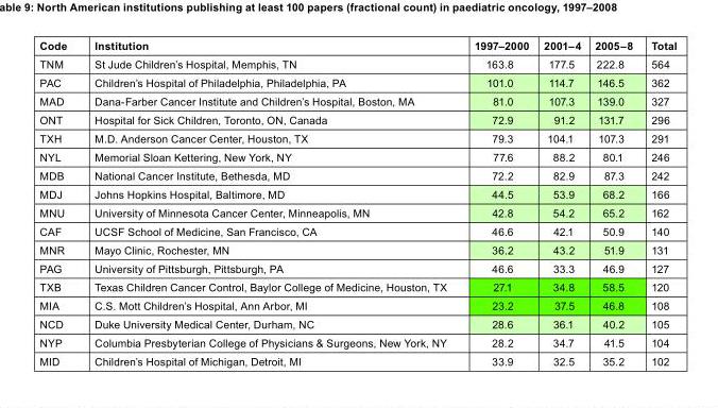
<table><thead><tr><td>Code</td><td>Institution</td><td>1997–2000</td><td>2001–4</td><td>2005–8</td><td>Total</td></tr></thead><tbody><tr><td>TNM</td><td>St Jude Children’s Hospital, Memphis, TN</td><td>163.8</td><td>177.5</td><td>222.8</td><td>564</td></tr><tr><td>PAC</td><td>Children’s Hospital of Philadelphia, Philadelphia, PA</td><td>101.0</td><td>114.7</td><td>146.5</td><td>362</td></tr><tr><td>MAD</td><td>Dana-Farber Cancer Institute and Children’s Hospital, Boston, MA</td><td>81.0</td><td>107.3</td><td>139.0</td><td>327</td></tr><tr><td>ONT</td><td>Hospital for Sick Children, Toronto, ON, Canada</td><td>72.9</td><td>91.2</td><td>131.7</td><td>296</td></tr><tr><td>TXH</td><td>M.D. Anderson Cancer Center, Houston, TX</td><td>79.3</td><td>104.1</td><td>107.3</td><td>291</td></tr><tr><td>NYL</td><td>Memorial Sloan Kettering, New York, NY</td><td>77.6</td><td>88.2</td><td>80.1</td><td>246</td></tr><tr><td>MDB</td><td>National Cancer Institute, Bethesda, MD</td><td>72.2</td><td>82.9</td><td>87.3</td><td>242</td></tr><tr><td>MDJ</td><td>Johns Hopkins Hospital, Baltimore, MD</td><td>44.5</td><td>53.9</td><td>68.2</td><td>166</td></tr><tr><td>MNU</td><td>University of Minnesota Cancer Center, Minneapolis, MN</td><td>42.8</td><td>54.2</td><td>65.2</td><td>162</td></tr><tr><td>CAF</td><td>UCSF School of Medicine, San Francisco, CA</td><td>46.6</td><td>42.1</td><td>50.9</td><td>140</td></tr><tr><td>MNR</td><td>Mayo Clinic, Rochester, MN</td><td>36.2</td><td>43.2</td><td>51.9</td><td>131</td></tr><tr><td>PAG</td><td>University of Pittsburgh, Pittsburgh, PA</td><td>46.6</td><td>33.3</td><td>46.9</td><td>127</td></tr><tr><td>TXB</td><td>Texas Children Cancer Control, Baylor College of Medicine, Houston, TX</td><td>27.1</td><td>34.8</td><td>58.5</td><td>120</td></tr><tr><td>MIA</td><td>C.S. Mott Children’s Hospital, Ann Arbor, MI</td><td>23.2</td><td>37.5</td><td>46.8</td><td>108</td></tr><tr><td>NCD</td><td>Duke University Medical Center, Durham, NC</td><td>28.6</td><td>36.1</td><td>40.2</td><td>105</td></tr><tr><td>NYP</td><td>Columbia Presbyterian College of Physicians &amp; Surgeons, New York, NY</td><td>28.2</td><td>34.7</td><td>41.5</td><td>104</td></tr><tr><td>MID</td><td>Children’s Hospital of Michigan, Detroit, MI</td><td>33.9</td><td>32.5</td><td>35.2</td><td>102</td></tr></tbody></table>